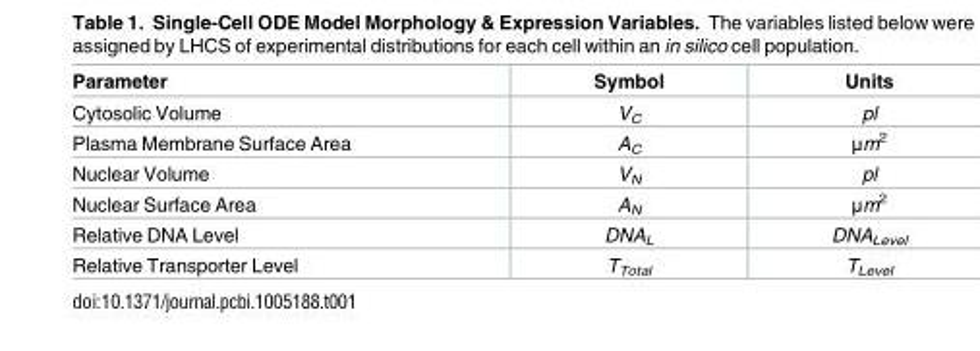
<table><thead><tr><td>Parameter</td><td>Symbol</td><td>Units</td></tr></thead><tbody><tr><td>Cytosolic Volume</td><td>V<sub>C</sub></td><td>pl</td></tr><tr><td>Plasma Membrane Surface Area</td><td>A<sub>C</sub></td><td>μm<sup>2</sup></td></tr><tr><td>Nuclear Volume</td><td>V<sub>N</sub></td><td>pl</td></tr><tr><td>Nuclear Surface Area</td><td>A<sub>N</sub></td><td>μm<sup>2</sup></td></tr><tr><td>Relative DNA Level</td><td>DNA<sub>L</sub></td><td>DNA<sub>Level</sub></td></tr><tr><td>Relative Transporter Level</td><td>T<sub>Total</sub></td><td>T<sub>Level</sub></td></tr></tbody></table>